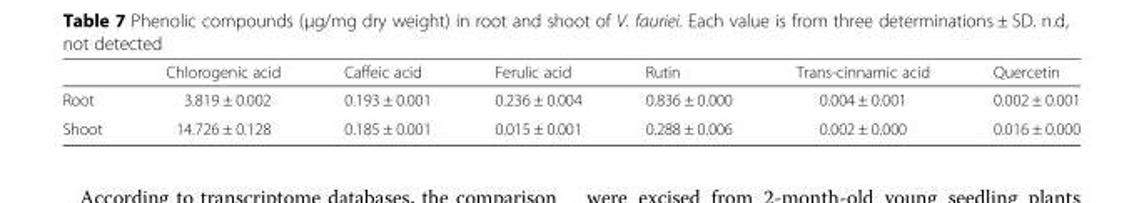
<table><thead><tr><td></td><td>Chlorogenic acid</td><td>Caffeic acid</td><td>Ferulic acid</td><td>Rutin</td><td>Trans-cinnamic acid</td><td>Quercetin</td></tr></thead><tbody><tr><td>Root</td><td>3.819 ± 0.002</td><td>0.193 ± 0.001</td><td>0.236 ± 0.004</td><td>0.836 ± 0.000</td><td>0.004 ± 0.001</td><td>0.002 ± 0.001</td></tr><tr><td>Shoot</td><td>14.726 ± 0.128</td><td>0.185 ± 0.001</td><td>0.015 ± 0.001</td><td>0.288 ± 0.006</td><td>0.002 ± 0.000</td><td>0.016 ± 0.000</td></tr></tbody></table>